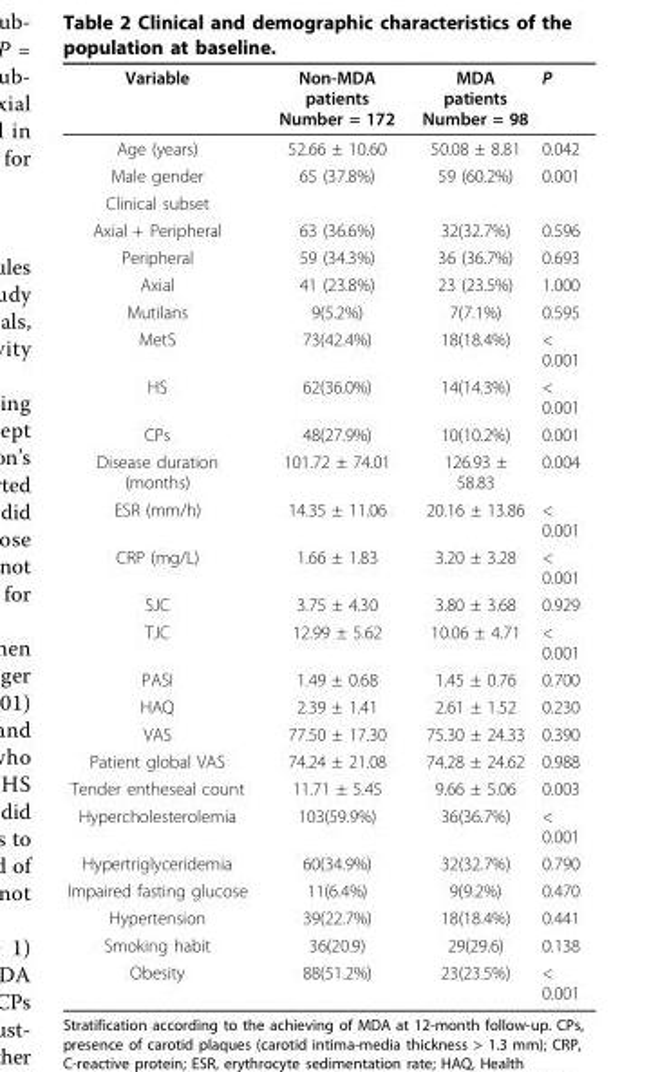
<table><thead><tr><td>Variable</td><td>Non-MDA patients Number = 172</td><td>MDA patients Number = 98</td><td>P</td></tr></thead><tbody><tr><td>Age (years)</td><td>52.66 ± 10.60</td><td>50.08 ± 8.81</td><td>0.042</td></tr><tr><td>Male gender</td><td>65 (37.8%)</td><td>59 (60.2%)</td><td>0.001</td></tr><tr><td colspan="4">Clinical subset</td></tr><tr><td>Axial + Peripheral</td><td>63 (36.6%)</td><td>32(32.7%)</td><td>0.596</td></tr><tr><td>Peripheral</td><td>59 (34.3%)</td><td>36 (36.7%)</td><td>0.693</td></tr><tr><td>Axial</td><td>41 (23.8%)</td><td>23 (23.5%)</td><td>1.000</td></tr><tr><td>Mutilans</td><td>9(5.2%)</td><td>7(7.1%)</td><td>0.595</td></tr><tr><td>MetS</td><td>73(42.4%)</td><td>18(18.4%)</td><td>&lt; 0.001</td></tr><tr><td>HS</td><td>62(36.0%)</td><td>14(14.3%)</td><td>&lt; 0.001</td></tr><tr><td>CPs</td><td>48(27.9%)</td><td>10(10.2%)</td><td>0.001</td></tr><tr><td>Disease duration (months)</td><td>101.72 ± 74.01</td><td>126.93 ± 58.83</td><td>0.004</td></tr><tr><td>ESR (mm/h)</td><td>14.35 ± 11.06</td><td>20.16 ± 13.86</td><td>&lt; 0.001</td></tr><tr><td>CRP (mg/L)</td><td>1.66 ± 1.83</td><td>3.20 ± 3.28</td><td>&lt; 0.001</td></tr><tr><td>SJC</td><td>3.75 ± 4.30</td><td>3.80 ± 3.68</td><td>0.929</td></tr><tr><td>TJC</td><td>12.99 ± 5.62</td><td>10.06 ± 4.71</td><td>&lt; 0.001</td></tr><tr><td>PASI</td><td>1.49 ± 0.68</td><td>1.45 ± 0.76</td><td>0.700</td></tr><tr><td>HAQ</td><td>2.39 ± 1.41</td><td>2.61 ± 1.52</td><td>0.230</td></tr><tr><td>VAS</td><td>77.50 ± 17.30</td><td>75.30 ± 24.33</td><td>0.390</td></tr><tr><td>Patient global VAS</td><td>74.24 ± 21.08</td><td>74.28 ± 24.62</td><td>0.988</td></tr><tr><td>Tender entheseal count</td><td>11.71 ± 5.45</td><td>9.66 ± 5.06</td><td>0.003</td></tr><tr><td>Hypercholesterolemia</td><td>103(59.9%)</td><td>36(36.7%)</td><td>&lt; 0.001</td></tr><tr><td>Hypertriglyceridemia</td><td>60(34.9%)</td><td>32(32.7%)</td><td>0.790</td></tr><tr><td>Impaired fasting glucose</td><td>11(6.4%)</td><td>9(9.2%)</td><td>0.470</td></tr><tr><td>Hypertension</td><td>39(22.7%)</td><td>18(18.4%)</td><td>0.441</td></tr><tr><td>Smoking habit</td><td>36(20.9)</td><td>29(29.6)</td><td>0.138</td></tr><tr><td>Obesity</td><td>88(51.2%)</td><td>23(23.5%)</td><td>&lt; 0.001</td></tr></tbody></table>